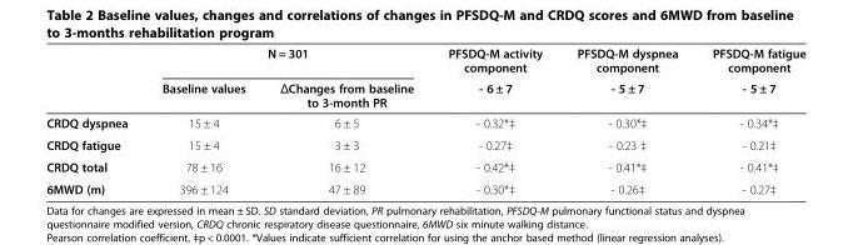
<table><thead><tr><td rowspan="2"></td><td colspan="2">N = 301</td><td rowspan="2">PFSDQ-M activity component - 6 ± 7</td><td rowspan="2">PFSDQ-M dyspnea component - 5 ± 7</td><td rowspan="2">PFSDQ-M fatigue component - 5 ± 7</td></tr><tr><td>Baseline values</td><td>ΔChanges from baseline to 3-month PR</td></tr></thead><tbody><tr><td>CRDQ dyspnea</td><td>15 ± 4</td><td>6 ± 5</td><td>- 0.32*‡</td><td>- 0.30*‡</td><td>- 0.34*‡</td></tr><tr><td>CRDQ fatigue</td><td>15 ± 4</td><td>3 ± 3</td><td>- 0.27‡</td><td>- 0.23 ‡</td><td>- 0.21‡</td></tr><tr><td>CRDQ total</td><td>78 ± 16</td><td>16 ± 12</td><td>- 0.42*‡</td><td>- 0.41*‡</td><td>- 0.41*‡</td></tr><tr><td>6MWD (m)</td><td>396 ± 124</td><td>47 ± 89</td><td>- 0.30*‡</td><td>- 0.26‡</td><td>- 0.27‡</td></tr></tbody></table>